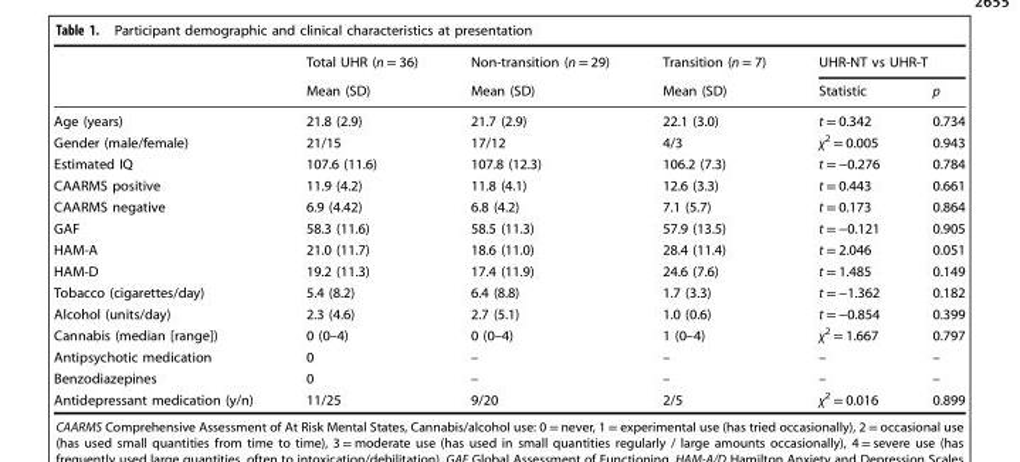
<table><thead><tr><td rowspan="2"></td><td rowspan="2">Total UHR (n = 36) Mean (SD)</td><td rowspan="2">Non-transition (n = 29) Mean (SD)</td><td rowspan="2">Transition (n = 7) Mean (SD)</td><td colspan="2">UHR-NT vs UHR-T</td></tr><tr><td>Statistic</td><td>p</td></tr></thead><tbody><tr><td>Age (years)</td><td>21.8 (2.9)</td><td>21.7 (2.9)</td><td>22.1 (3.0)</td><td>t = 0.342</td><td>0.734</td></tr><tr><td>Gender (male/female)</td><td>21/15</td><td>17/12</td><td>4/3</td><td>χ<sup>2</sup> = 0.005</td><td>0.943</td></tr><tr><td>Estimated IQ</td><td>107.6 (11.6)</td><td>107.8 (12.3)</td><td>106.2 (7.3)</td><td>t = −0.276</td><td>0.784</td></tr><tr><td>CAARMS positive</td><td>11.9 (4.2)</td><td>11.8 (4.1)</td><td>12.6 (3.3)</td><td>t = 0.443</td><td>0.661</td></tr><tr><td>CAARMS negative</td><td>6.9 (4.42)</td><td>6.8 (4.2)</td><td>7.1 (5.7)</td><td>t = 0.173</td><td>0.864</td></tr><tr><td>GAF</td><td>58.3 (11.6)</td><td>58.5 (11.3)</td><td>57.9 (13.5)</td><td>t = −0.121</td><td>0.905</td></tr><tr><td>HAM-A</td><td>21.0 (11.7)</td><td>18.6 (11.0)</td><td>28.4 (11.4)</td><td>t = 2.046</td><td>0.051</td></tr><tr><td>HAM-D</td><td>19.2 (11.3)</td><td>17.4 (11.9)</td><td>24.6 (7.6)</td><td>t = 1.485</td><td>0.149</td></tr><tr><td>Tobacco (cigarettes/day)</td><td>5.4 (8.2)</td><td>6.4 (8.8)</td><td>1.7 (3.3)</td><td>t = −1.362</td><td>0.182</td></tr><tr><td>Alcohol (units/day)</td><td>2.3 (4.6)</td><td>2.7 (5.1)</td><td>1.0 (0.6)</td><td>t = −0.854</td><td>0.399</td></tr><tr><td>Cannabis (median [range])</td><td>0 (0–4)</td><td>0 (0–4)</td><td>1 (0–4)</td><td>χ<sup>2</sup> = 1.667</td><td>0.797</td></tr><tr><td>Antipsychotic medication</td><td>0</td><td>–</td><td>–</td><td>–</td><td>–</td></tr><tr><td>Benzodiazepines</td><td>0</td><td>–</td><td>–</td><td>–</td><td>–</td></tr><tr><td>Antidepressant medication (y/n)</td><td>11/25</td><td>9/20</td><td>2/5</td><td>χ<sup>2</sup> = 0.016</td><td>0.899</td></tr></tbody></table>